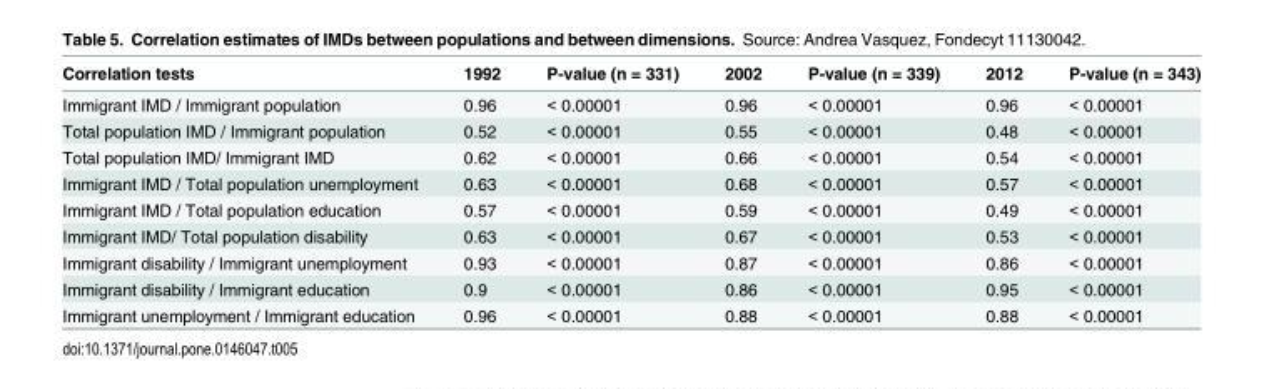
<table><thead><tr><td>Correlation tests</td><td>1992</td><td>P-value (n = 331)</td><td>2002</td><td>P-value (n = 339)</td><td>2012</td><td>P-value (n = 343)</td></tr></thead><tbody><tr><td>Immigrant IMD / Immigrant population</td><td>0.96</td><td>&lt; 0.00001</td><td>0.96</td><td>&lt; 0.00001</td><td>0.96</td><td>&lt; 0.00001</td></tr><tr><td>Total population IMD / Immigrant population</td><td>0.52</td><td>&lt; 0.00001</td><td>0.55</td><td>&lt; 0.00001</td><td>0.48</td><td>&lt; 0.00001</td></tr><tr><td>Total population IMD/ Immigrant IMD</td><td>0.62</td><td>&lt; 0.00001</td><td>0.66</td><td>&lt; 0.00001</td><td>0.54</td><td>&lt; 0.00001</td></tr><tr><td>Immigrant IMD / Total population unemployment</td><td>0.63</td><td>&lt; 0.00001</td><td>0.68</td><td>&lt; 0.00001</td><td>0.57</td><td>&lt; 0.00001</td></tr><tr><td>Immigrant IMD / Total population education</td><td>0.57</td><td>&lt; 0.00001</td><td>0.59</td><td>&lt; 0.00001</td><td>0.49</td><td>&lt; 0.00001</td></tr><tr><td>Immigrant IMD/ Total population disability</td><td>0.63</td><td>&lt; 0.00001</td><td>0.67</td><td>&lt; 0.00001</td><td>0.53</td><td>&lt; 0.00001</td></tr><tr><td>Immigrant disability / Immigrant unemployment</td><td>0.93</td><td>&lt; 0.00001</td><td>0.87</td><td>&lt; 0.00001</td><td>0.86</td><td>&lt; 0.00001</td></tr><tr><td>Immigrant disability / Immigrant education</td><td>0.9</td><td>&lt; 0.00001</td><td>0.86</td><td>&lt; 0.00001</td><td>0.95</td><td>&lt; 0.00001</td></tr><tr><td>Immigrant unemployment / Immigrant education</td><td>0.96</td><td>&lt; 0.00001</td><td>0.88</td><td>&lt; 0.00001</td><td>0.88</td><td>&lt; 0.00001</td></tr></tbody></table>